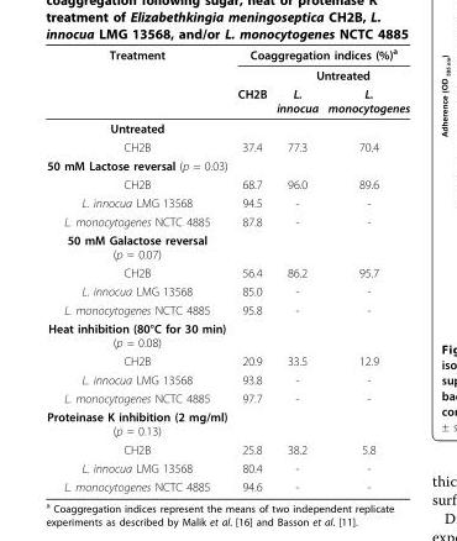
<table><thead><tr><td rowspan="3">Treatment</td><td colspan="3">Coaggregation indices (%)<sup>a</sup></td></tr><tr><td rowspan="2">CH2B</td><td colspan="2">Untreated</td></tr><tr><td>L. innocua</td><td>L. monocytogenes</td></tr></thead><tbody><tr><td colspan="4">Untreated</td></tr><tr><td>CH2B</td><td>37.4</td><td>77.3</td><td>70.4</td></tr><tr><td colspan="4">50 mM Lactose reversal (p = 0.03)</td></tr><tr><td>CH2B</td><td>68.7</td><td>96.0</td><td>89.6</td></tr><tr><td>L. innocua LMG 13568</td><td>94.5</td><td>-</td><td>-</td></tr><tr><td>L. monocytogenes NCTC 4885</td><td>87.8</td><td>-</td><td>-</td></tr><tr><td colspan="4">50 mM Galactose reversal (p = 0.07)</td></tr><tr><td>CH2B</td><td>56.4</td><td>86.2</td><td>95.7</td></tr><tr><td>L. innocua LMG 13568</td><td>85.0</td><td>-</td><td>-</td></tr><tr><td>L. monocytogenes NCTC 4885</td><td>95.8</td><td>-</td><td>-</td></tr><tr><td colspan="4">Heat inhibition (80°C for 30 min) (p = 0.08)</td></tr><tr><td>CH2B</td><td>20.9</td><td>33.5</td><td>12.9</td></tr><tr><td>L. innocua LMG 13568</td><td>93.8</td><td>-</td><td>-</td></tr><tr><td>L. monocytogenes NCTC 4885</td><td>97.7</td><td>-</td><td>-</td></tr><tr><td colspan="4">Proteinase K inhibition (2 mg/ml) (p = 0.13)</td></tr><tr><td>CH2B</td><td>25.8</td><td>38.2</td><td>5.8</td></tr><tr><td>L. innocua LMG 13568</td><td>80.4</td><td>-</td><td>-</td></tr><tr><td>L. monocytogenes NCTC 4885</td><td>94.6</td><td>-</td><td>-</td></tr></tbody></table>